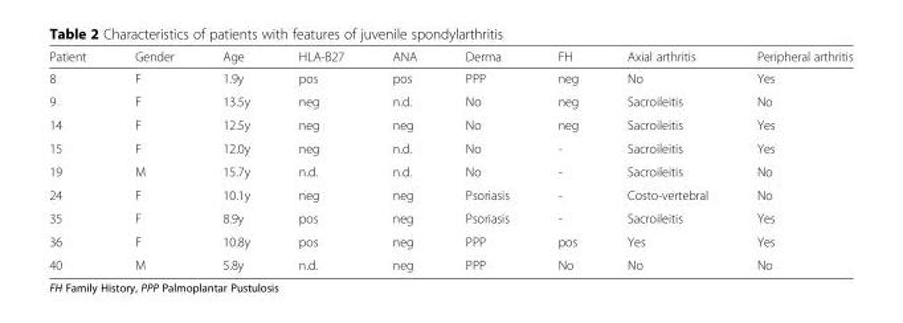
<table><thead><tr><td>Patient</td><td>Gender</td><td>Age</td><td>HLA-B27</td><td>ANA</td><td>Derma</td><td>FH</td><td>Axial arthritis</td><td>Peripheral arthritis</td></tr></thead><tbody><tr><td>8</td><td>F</td><td>1.9y</td><td>pos</td><td>pos</td><td>PPP</td><td>neg</td><td>No</td><td>Yes</td></tr><tr><td>9</td><td>F</td><td>13.5y</td><td>neg</td><td>n.d.</td><td>No</td><td>neg</td><td>Sacroileitis</td><td>No</td></tr><tr><td>14</td><td>F</td><td>12.5y</td><td>neg</td><td>neg</td><td>No</td><td>neg</td><td>Sacroileitis</td><td>Yes</td></tr><tr><td>15</td><td>F</td><td>12.0y</td><td>neg</td><td>n.d.</td><td>No</td><td>-</td><td>Sacroileitis</td><td>Yes</td></tr><tr><td>19</td><td>M</td><td>15.7y</td><td>n.d.</td><td>n.d.</td><td>No</td><td>-</td><td>Sacroileitis</td><td>No</td></tr><tr><td>24</td><td>F</td><td>10.1y</td><td>neg</td><td>neg</td><td>Psoriasis</td><td>-</td><td>Costo-vertebral</td><td>No</td></tr><tr><td>35</td><td>F</td><td>8.9y</td><td>pos</td><td>neg</td><td>Psoriasis</td><td>-</td><td>Sacroileitis</td><td>Yes</td></tr><tr><td>36</td><td>F</td><td>10.8y</td><td>pos</td><td>neg</td><td>PPP</td><td>pos</td><td>Yes</td><td>Yes</td></tr><tr><td>40</td><td>M</td><td>5.8y</td><td>n.d.</td><td>neg</td><td>PPP</td><td>No</td><td>No</td><td>No</td></tr></tbody></table>